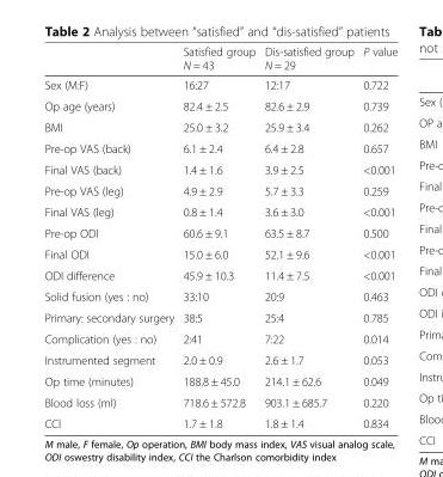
<table><thead><tr><td></td><td>Satisfied group N = 43</td><td>Dis-satisfied group N = 29</td><td>P value</td></tr></thead><tbody><tr><td>Sex (M:F)</td><td>16:27</td><td>12:17</td><td>0.722</td></tr><tr><td>Op age (years)</td><td>82.4 ± 2.5</td><td>82.6 ± 2.9</td><td>0.739</td></tr><tr><td>BMI</td><td>25.0 ± 3.2</td><td>25.9 ± 3.4</td><td>0.262</td></tr><tr><td>Pre-op VAS (back)</td><td>6.1 ± 2.4</td><td>6.4 ± 2.8</td><td>0.657</td></tr><tr><td>Final VAS (back)</td><td>1.4 ± 1.6</td><td>3.9 ± 2.5</td><td>&lt;0.001</td></tr><tr><td>Pre-op VAS (leg)</td><td>4.9 ± 2.9</td><td>5.7 ± 3.3</td><td>0.259</td></tr><tr><td>Final VAS (leg)</td><td>0.8 ± 1.4</td><td>3.6 ± 3.0</td><td>&lt;0.001</td></tr><tr><td>Pre-op ODI</td><td>60.6 ± 9.1</td><td>63.5 ± 8.7</td><td>0.500</td></tr><tr><td>Final ODI</td><td>15.0 ± 6.0</td><td>52.1 ± 9.6</td><td>&lt;0.001</td></tr><tr><td>ODI difference</td><td>45.9 ± 10.3</td><td>11.4 ± 7.5</td><td>&lt;0.001</td></tr><tr><td>Solid fusion (yes : no)</td><td>33:10</td><td>20:9</td><td>0.463</td></tr><tr><td>Primary: secondary surgery</td><td>38:5</td><td>25:4</td><td>0.785</td></tr><tr><td>Complication (yes : no)</td><td>2:41</td><td>7:22</td><td>0.014</td></tr><tr><td>Instrumented segment</td><td>2.0 ± 0.9</td><td>2.6 ± 1.7</td><td>0.053</td></tr><tr><td>Op time (minutes)</td><td>188.8 ± 45.0</td><td>214.1 ± 62.6</td><td>0.049</td></tr><tr><td>Blood loss (ml)</td><td>718.6 ± 572.8</td><td>903.1 ± 685.7</td><td>0.220</td></tr><tr><td>CCI</td><td>1.7 ± 1.8</td><td>1.8 ± 1.4</td><td>0.834</td></tr></tbody></table>